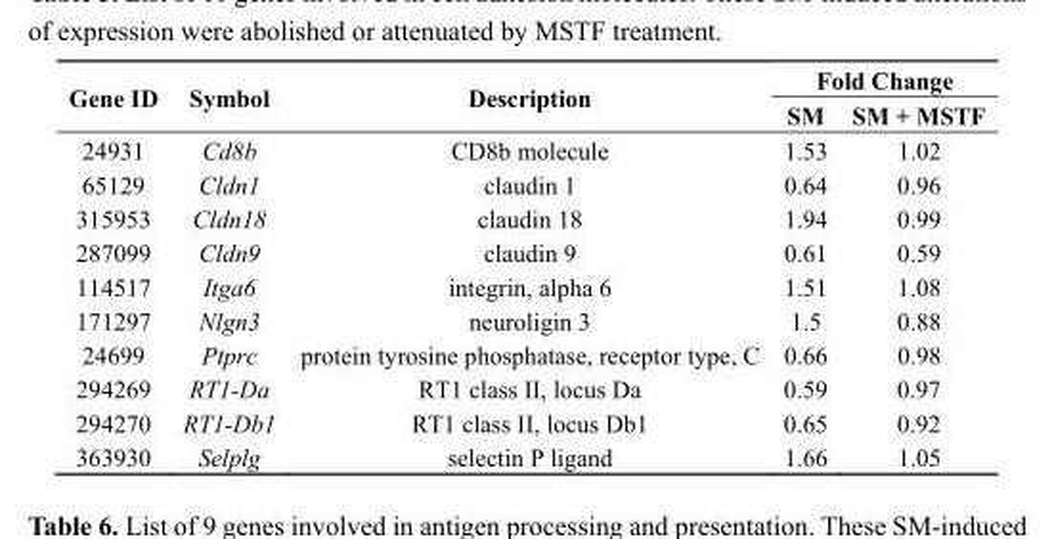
<table><thead><tr><td rowspan="2">Gene ID</td><td rowspan="2">Symbol</td><td rowspan="2">Description</td><td colspan="2">Fold Change</td></tr><tr><td>SM</td><td>SM + MSTF</td></tr></thead><tbody><tr><td>24931</td><td>Cd8b</td><td>CD8b molecule</td><td>1.53</td><td>1.02</td></tr><tr><td>65129</td><td>Cldn1</td><td>claudin 1</td><td>0.64</td><td>0.96</td></tr><tr><td>315953</td><td>Cldn18</td><td>claudin 18</td><td>1.94</td><td>0.99</td></tr><tr><td>287099</td><td>Cldn9</td><td>claudin 9</td><td>0.61</td><td>0.59</td></tr><tr><td>114517</td><td>Itga6</td><td>integrin, alpha 6</td><td>1.51</td><td>1.08</td></tr><tr><td>171297</td><td>Nlgn3</td><td>neuroligin 3</td><td>1.5</td><td>0.88</td></tr><tr><td>24699</td><td>Ptprc</td><td>protein tyrosine phosphatase, receptor type, C</td><td>0.66</td><td>0.98</td></tr><tr><td>294269</td><td>RT1-Da</td><td>RT1 class II, locus Da</td><td>0.59</td><td>0.97</td></tr><tr><td>294270</td><td>RT1-Db1</td><td>RT1 class II, locus Db1</td><td>0.65</td><td>0.92</td></tr><tr><td>363930</td><td>Selplg</td><td>selectin P ligand</td><td>1.66</td><td>1.05</td></tr></tbody></table>